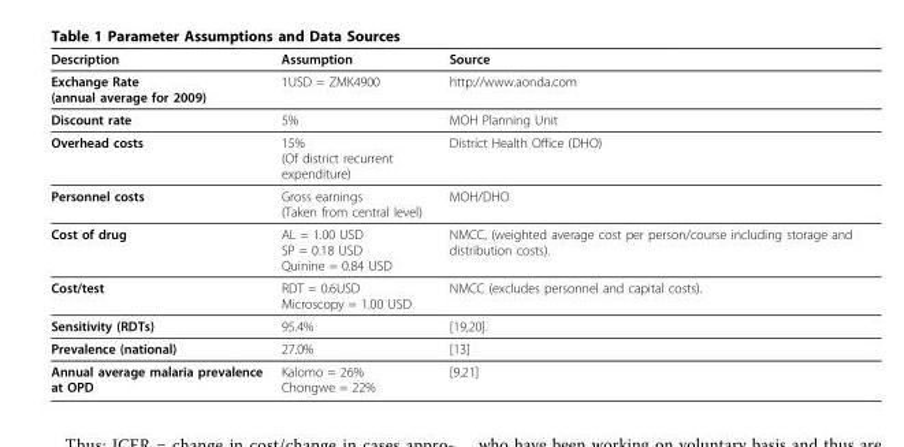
<table><thead><tr><td>Description</td><td>Assumption</td><td>Source</td></tr></thead><tbody><tr><td>Exchange Rate (annual average for 2009)</td><td>1USD = ZMK4900</td><td>http://www.aonda.com</td></tr><tr><td>Discount rate</td><td>5%</td><td>MOH Planning Unit</td></tr><tr><td>Overhead costs</td><td>15% (Of district recurrent expenditure)</td><td>District Health Office (DHO)</td></tr><tr><td>Personnel costs</td><td>Gross earnings (Taken from central level)</td><td>MOH/DHO</td></tr><tr><td>Cost of drug</td><td>AL = 1.00 USD SP = 0.18 USD Quinine = 0.84 USD</td><td>NMCC, (weighted average cost per person/course including storage and distribution costs).</td></tr><tr><td>Cost/test</td><td>RDT = 0.6USD Microscopy = 1.00 USD</td><td>NMCC (excludes personnel and capital costs).</td></tr><tr><td>Sensitivity (RDTs)</td><td>95.4%</td><td>[19,20].</td></tr><tr><td>Prevalence (national)</td><td>27.0%</td><td>[13]</td></tr><tr><td>Annual average malaria prevalence at OPD</td><td>Kalomo = 26% Chongwe = 22%</td><td>[9,21]</td></tr></tbody></table>